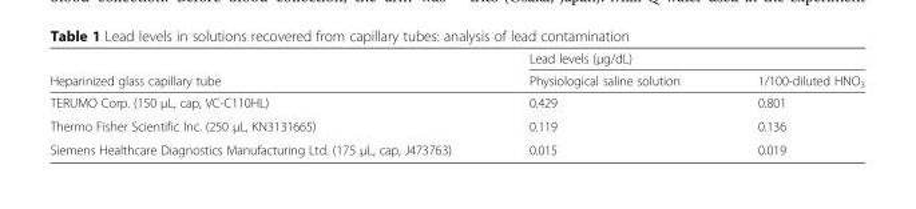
<table><thead><tr><td rowspan="2">Heparinized glass capillary tube</td><td colspan="2">Lead levels (μg/dL)</td></tr><tr><td>Physiological saline solution</td><td>1/100-diluted HNO<sub>3</sub></td></tr></thead><tbody><tr><td>TERUMO Corp. (150 μL, cap, VC-C110HL)</td><td>0.429</td><td>0.801</td></tr><tr><td>Thermo Fisher Scientific Inc. (250 μL, KN3131665)</td><td>0.119</td><td>0.136</td></tr><tr><td>Siemens Healthcare Diagnostics Manufacturing Ltd. (175 μL, cap, J473763)</td><td>0.015</td><td>0.019</td></tr></tbody></table>